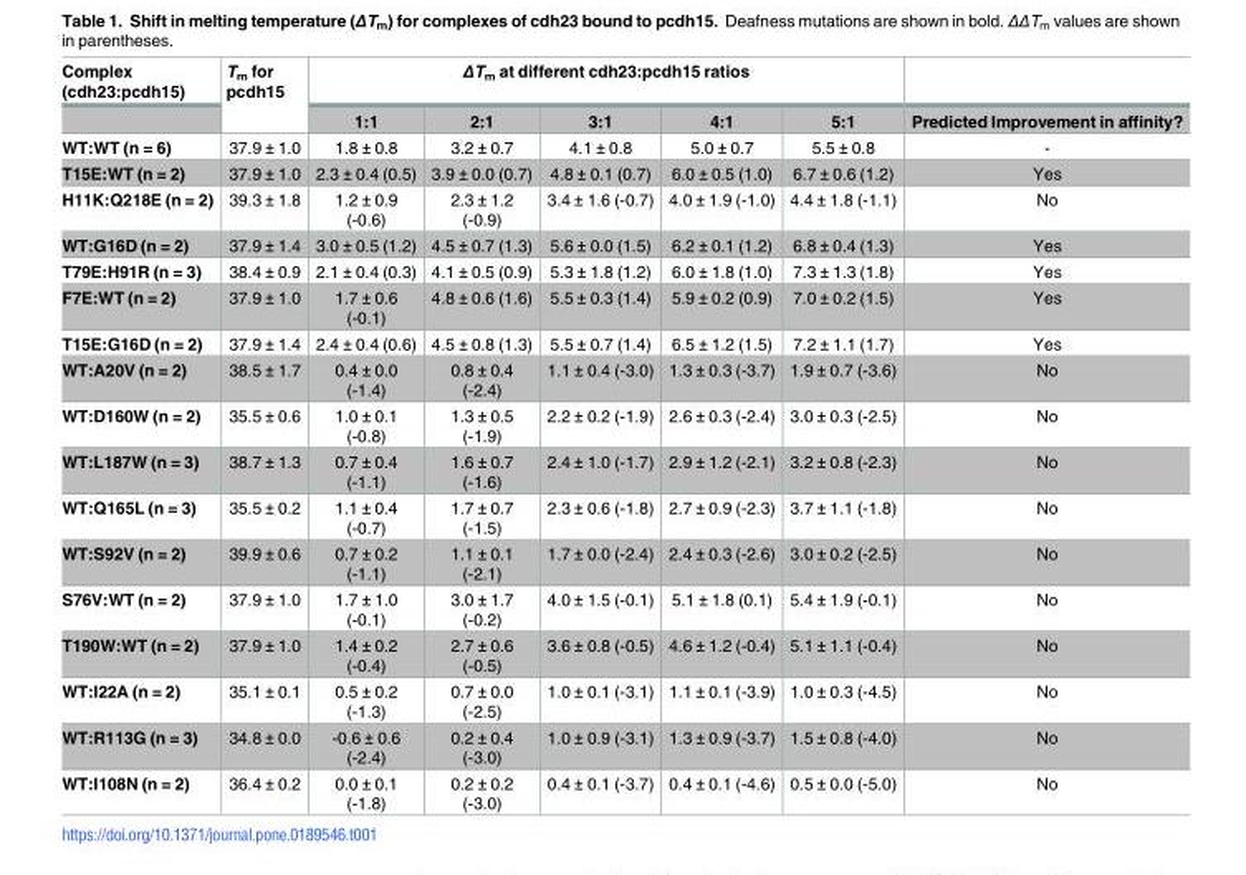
<table><thead><tr><td rowspan="2">Complex (cdh23:pcdh15)</td><td rowspan="2">T<sub>m</sub> for pcdh15</td><td colspan="5">ΔT<sub>m</sub> at different cdh23:pcdh15 ratios</td><td rowspan="2">Predicted Improvement in affinity?</td></tr><tr><td>1:1</td><td>2:1</td><td>3:1</td><td>4:1</td><td>5:1</td></tr></thead><tbody><tr><td>WT:WT (n = 6)</td><td>37.9 ± 1.0</td><td>1.8 ± 0.8</td><td>3.2 ± 0.7</td><td>4.1 ± 0.8</td><td>5.0 ± 0.7</td><td>5.5 ± 0.8</td><td>-</td></tr><tr><td>T15E:WT (n = 2)</td><td>37.9 ± 1.0</td><td>2.3 ± 0.4 (0.5)</td><td>3.9 ± 0.0 (0.7)</td><td>4.8 ± 0.1 (0.7)</td><td>6.0 ± 0.5 (1.0)</td><td>6.7 ± 0.6 (1.2)</td><td>Yes</td></tr><tr><td>H11K:Q218E (n = 2)</td><td>39.3 ± 1.8</td><td>1.2 ± 0.9 (-0.6)</td><td>2.3 ± 1.2 (-0.9)</td><td>3.4 ± 1.6 (-0.7)</td><td>4.0 ± 1.9 (-1.0)</td><td>4.4 ± 1.8 (-1.1)</td><td>No</td></tr><tr><td>WT:G16D (n = 2)</td><td>37.9 ± 1.4</td><td>3.0 ± 0.5 (1.2)</td><td>4.5 ± 0.7 (1.3)</td><td>5.6 ± 0.0 (1.5)</td><td>6.2 ± 0.1 (1.2)</td><td>6.8 ± 0.4 (1.3)</td><td>Yes</td></tr><tr><td>T79E:H91R (n = 3)</td><td>38.4 ± 0.9</td><td>2.1 ± 0.4 (0.3)</td><td>4.1 ± 0.5 (0.9)</td><td>5.3 ± 1.8 (1.2)</td><td>6.0 ± 1.8 (1.0)</td><td>7.3 ± 1.3 (1.8)</td><td>Yes</td></tr><tr><td>F7E:WT (n = 2)</td><td>37.9 ± 1.0</td><td>1.7 ± 0.6 (-0.1)</td><td>4.8 ± 0.6 (1.6)</td><td>5.5 ± 0.3 (1.4)</td><td>5.9 ± 0.2 (0.9)</td><td>7.0 ± 0.2 (1.5)</td><td>Yes</td></tr><tr><td>T15E:G16D (n = 2)</td><td>37.9 ± 1.4</td><td>2.4 ± 0.4 (0.6)</td><td>4.5 ± 0.8 (1.3)</td><td>5.5 ± 0.7 (1.4)</td><td>6.5 ± 1.2 (1.5)</td><td>7.2 ± 1.1 (1.7)</td><td>Yes</td></tr><tr><td>WT:A20V (n = 2)</td><td>38.5 ± 1.7</td><td>0.4 ± 0.0 (-1.4)</td><td>0.8 ± 0.4 (-2.4)</td><td>1.1 ± 0.4 (-3.0)</td><td>1.3 ± 0.3 (-3.7)</td><td>1.9 ± 0.7 (-3.6)</td><td>No</td></tr><tr><td>WT:D160W (n = 2)</td><td>35.5 ± 0.6</td><td>1.0 ± 0.1 (-0.8)</td><td>1.3 ± 0.5 (-1.9)</td><td>2.2 ± 0.2 (-1.9)</td><td>2.6 ± 0.3 (-2.4)</td><td>3.0 ± 0.3 (-2.5)</td><td>No</td></tr><tr><td>WT:L187W (n = 3)</td><td>38.7 ± 1.3</td><td>0.7 ± 0.4 (-1.1)</td><td>1.6 ± 0.7 (-1.6)</td><td>2.4 ± 1.0 (-1.7)</td><td>2.9 ± 1.2 (-2.1)</td><td>3.2 ± 0.8 (-2.3)</td><td>No</td></tr><tr><td>WT:Q165L (n = 3)</td><td>35.5 ± 0.2</td><td>1.1 ± 0.4 (-0.7)</td><td>1.7 ± 0.7 (-1.5)</td><td>2.3 ± 0.6 (-1.8)</td><td>2.7 ± 0.9 (-2.3)</td><td>3.7 ± 1.1 (-1.8)</td><td>No</td></tr><tr><td>WT:S92V (n = 2)</td><td>39.9 ± 0.6</td><td>0.7 ± 0.2 (-1.1)</td><td>1.1 ± 0.1 (-2.1)</td><td>1.7 ± 0.0 (-2.4)</td><td>2.4 ± 0.3 (-2.6)</td><td>3.0 ± 0.2 (-2.5)</td><td>No</td></tr><tr><td>S76V:WT (n = 2)</td><td>37.9 ± 1.0</td><td>1.7 ± 1.0 (-0.1)</td><td>3.0 ± 1.7 (-0.2)</td><td>4.0 ± 1.5 (-0.1)</td><td>5.1 ± 1.8 (0.1)</td><td>5.4 ± 1.9 (-0.1)</td><td>No</td></tr><tr><td>T190W:WT (n = 2)</td><td>37.9 ± 1.0</td><td>1.4 ± 0.2 (-0.4)</td><td>2.7 ± 0.6 (-0.5)</td><td>3.6 ± 0.8 (-0.5)</td><td>4.6 ± 1.2 (-0.4)</td><td>5.1 ± 1.1 (-0.4)</td><td>No</td></tr><tr><td>WT:I22A (n = 2)</td><td>35.1 ± 0.1</td><td>0.5 ± 0.2 (-1.3)</td><td>0.7 ± 0.0 (-2.5)</td><td>1.0 ± 0.1 (-3.1)</td><td>1.1 ± 0.1 (-3.9)</td><td>1.0 ± 0.3 (-4.5)</td><td>No</td></tr><tr><td>WT:R113G (n = 3)</td><td>34.8 ± 0.0</td><td>-0.6 ± 0.6 (-2.4)</td><td>0.2 ± 0.4 (-3.0)</td><td>1.0 ± 0.9 (-3.1)</td><td>1.3 ± 0.9 (-3.7)</td><td>1.5 ± 0.8 (-4.0)</td><td>No</td></tr><tr><td>WT:I108N (n = 2)</td><td>36.4 ± 0.2</td><td>0.0 ± 0.1 (-1.8)</td><td>0.2 ± 0.2 (-3.0)</td><td>0.4 ± 0.1 (-3.7)</td><td>0.4 ± 0.1 (-4.6)</td><td>0.5 ± 0.0 (-5.0)</td><td>No</td></tr></tbody></table>